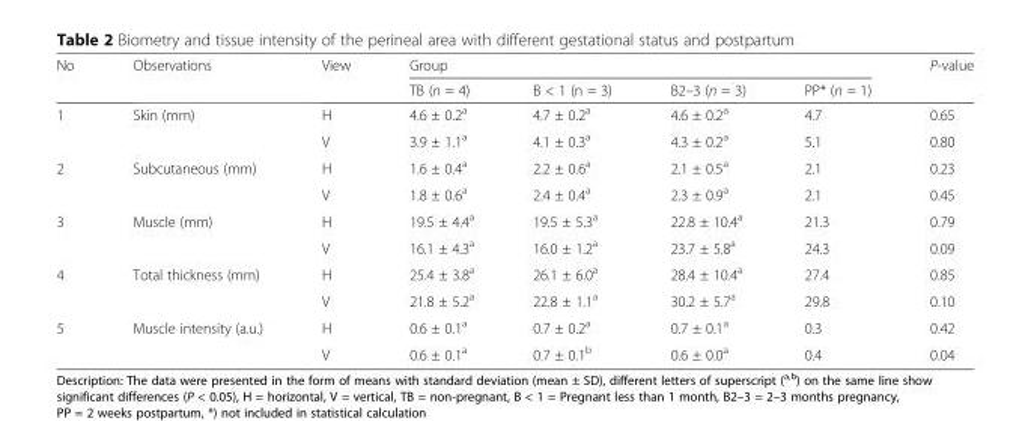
<table><thead><tr><td rowspan="2">No</td><td rowspan="2">Observations</td><td rowspan="2">View</td><td colspan="4">Group</td><td rowspan="2">P-value</td></tr><tr><td>TB (n = 4)</td><td>B &lt; 1 (n = 3)</td><td>B2–3 (n = 3)</td><td>PP* (n = 1)</td></tr></thead><tbody><tr><td rowspan="2">1</td><td>Skin (mm)</td><td>H</td><td>4.6 ± 0.2<sup>a</sup></td><td>4.7 ± 0.2<sup>a</sup></td><td>4.6 ± 0.2<sup>a</sup></td><td>4.7</td><td>0.65</td></tr><tr><td></td><td>V</td><td>3.9 ± 1.1<sup>a</sup></td><td>4.1 ± 0.3<sup>a</sup></td><td>4.3 ± 0.2<sup>a</sup></td><td>5.1</td><td>0.80</td></tr><tr><td rowspan="2">2</td><td>Subcutaneous (mm)</td><td>H</td><td>1.6 ± 0.4<sup>a</sup></td><td>2.2 ± 0.6<sup>a</sup></td><td>2.1 ± 0.5<sup>a</sup></td><td>2.1</td><td>0.23</td></tr><tr><td></td><td>V</td><td>1.8 ± 0.6<sup>a</sup></td><td>2.4 ± 0.4<sup>a</sup></td><td>2.3 ± 0.9<sup>a</sup></td><td>2.1</td><td>0.45</td></tr><tr><td rowspan="2">3</td><td>Muscle (mm)</td><td>H</td><td>19.5 ± 4.4<sup>a</sup></td><td>19.5 ± 5.3<sup>a</sup></td><td>22.8 ± 10.4<sup>a</sup></td><td>21.3</td><td>0.79</td></tr><tr><td></td><td>V</td><td>16.1 ± 4.3<sup>a</sup></td><td>16.0 ± 1.2<sup>a</sup></td><td>23.7 ± 5.8<sup>a</sup></td><td>24.3</td><td>0.09</td></tr><tr><td rowspan="2">4</td><td>Total thickness (mm)</td><td>H</td><td>25.4 ± 3.8<sup>a</sup></td><td>26.1 ± 6.0<sup>a</sup></td><td>28.4 ± 10.4<sup>a</sup></td><td>27.4</td><td>0.85</td></tr><tr><td></td><td>V</td><td>21.8 ± 5.2<sup>a</sup></td><td>22.8 ± 1.1<sup>a</sup></td><td>30.2 ± 5.7<sup>a</sup></td><td>29.8</td><td>0.10</td></tr><tr><td rowspan="2">5</td><td>Muscle intensity (a.u.)</td><td>H</td><td>0.6 ± 0.1<sup>a</sup></td><td>0.7 ± 0.2<sup>a</sup></td><td>0.7 ± 0.1<sup>a</sup></td><td>0.3</td><td>0.42</td></tr><tr><td></td><td>V</td><td>0.6 ± 0.1<sup>a</sup></td><td>0.7 ± 0.1<sup>b</sup></td><td>0.6 ± 0.0<sup>a</sup></td><td>0.4</td><td>0.04</td></tr></tbody></table>